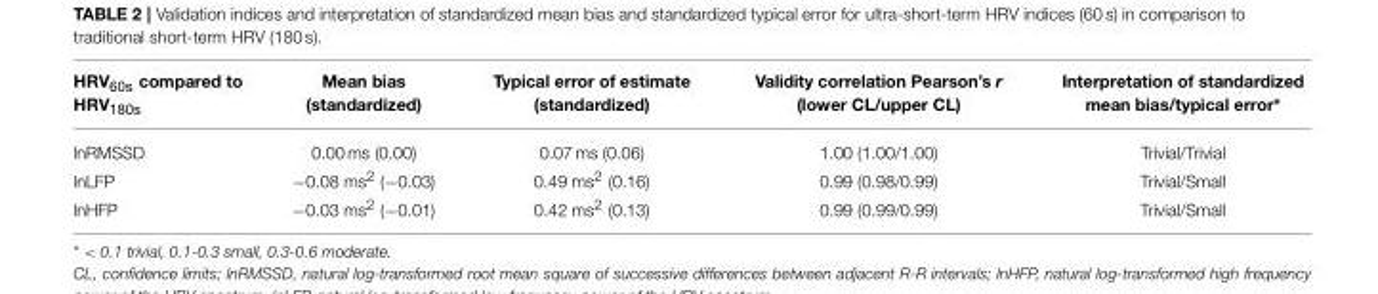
<table><thead><tr><td>HRV<sub>60s</sub> compared to HRV<sub>180s</sub></td><td>Mean bias (standardized)</td><td>Typical error of estimate (standardized)</td><td>Validity correlation Pearson’s r (lower CL/upper CL)</td><td>Interpretation of standardized mean bias/typical error*</td></tr></thead><tbody><tr><td>lnRMSSD</td><td>0.00 ms (0.00)</td><td>0.07 ms (0.06)</td><td>1.00 (1.00/1.00)</td><td>Trivial/Trivial</td></tr><tr><td>lnLFP</td><td>−0.08 ms<sup>2</sup> (−0.03)</td><td>0.49 ms<sup>2</sup> (0.16)</td><td>0.99 (0.98/0.99)</td><td>Trivial/Small</td></tr><tr><td>lnHFP</td><td>−0.03 ms<sup>2</sup> (−0.01)</td><td>0.42 ms<sup>2</sup> (0.13)</td><td>0.99 (0.99/0.99)</td><td>Trivial/Small</td></tr></tbody></table>